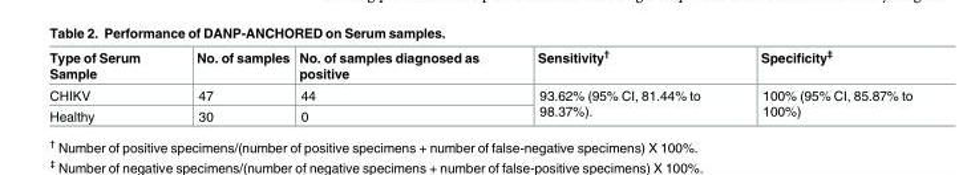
<table><thead><tr><td>Type of Serum Sample</td><td>No. of samples</td><td>No. of samples diagnosed as positive</td><td>Sensitivity<sup>†</sup></td><td>Specificity<sup>‡</sup></td></tr></thead><tbody><tr><td>CHIKV</td><td>47</td><td>44</td><td rowspan="2">93.62% (95% CI, 81.44% to 98.37%).</td><td rowspan="2">100% (95% CI, 85.87% to 100%)</td></tr><tr><td>Healthy</td><td>30</td><td>0</td></tr></tbody></table>